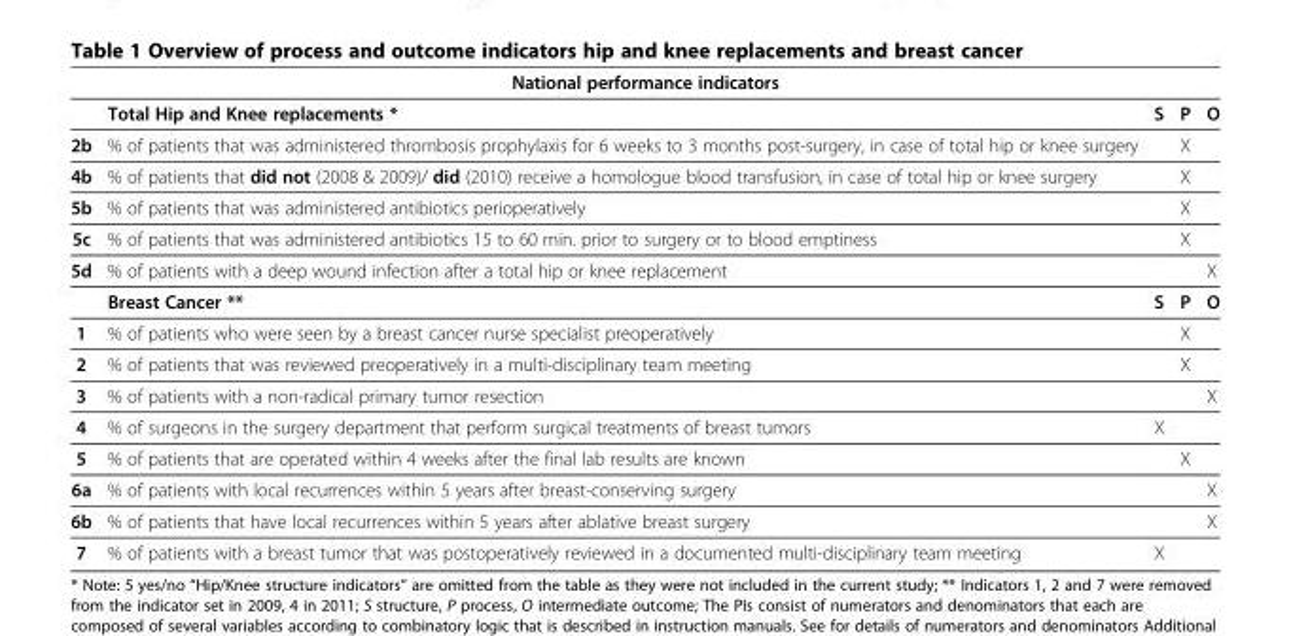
<table><thead><tr><td colspan="5">National performance indicators</td></tr><tr><td></td><td>Total Hip and Knee replacements *</td><td>S</td><td>P</td><td>O</td></tr></thead><tbody><tr><td>2b</td><td>% of patients that was administered thrombosis prophylaxis for 6 weeks to 3 months post-surgery, in case of total hip or knee surgery</td><td></td><td>X</td><td></td></tr><tr><td>4b</td><td>% of patients that did not (2008 &amp; 2009)/ did (2010) receive a homologue blood transfusion, in case of total hip or knee surgery</td><td></td><td>X</td><td></td></tr><tr><td>5b</td><td>% of patients that was administered antibiotics perioperatively</td><td></td><td>X</td><td></td></tr><tr><td>5c</td><td>% of patients that was administered antibiotics 15 to 60 min. prior to surgery or to blood emptiness</td><td></td><td>X</td><td></td></tr><tr><td rowspan="2">5d</td><td>% of patients with a deep wound infection after a total hip or knee replacement</td><td></td><td></td><td>X</td></tr><tr><td>Breast Cancer **</td><td>S</td><td>P</td><td>O</td></tr><tr><td>1</td><td>% of patients who were seen by a breast cancer nurse specialist preoperatively</td><td></td><td>X</td><td></td></tr><tr><td>2</td><td>% of patients that was reviewed preoperatively in a multi-disciplinary team meeting</td><td></td><td>X</td><td></td></tr><tr><td>3</td><td>% of patients with a non-radical primary tumor resection</td><td></td><td></td><td>X</td></tr><tr><td>4</td><td>% of surgeons in the surgery department that perform surgical treatments of breast tumors</td><td>X</td><td></td><td></td></tr><tr><td>5</td><td>% of patients that are operated within 4 weeks after the final lab results are known</td><td></td><td>X</td><td></td></tr><tr><td>6a</td><td>% of patients with local recurrences within 5 years after breast-conserving surgery</td><td></td><td></td><td>X</td></tr><tr><td>6b</td><td>% of patients that have local recurrences within 5 years after ablative breast surgery</td><td></td><td></td><td>X</td></tr><tr><td>7</td><td>% of patients with a breast tumor that was postoperatively reviewed in a documented multi-disciplinary team meeting</td><td>X</td><td></td><td></td></tr></tbody></table>